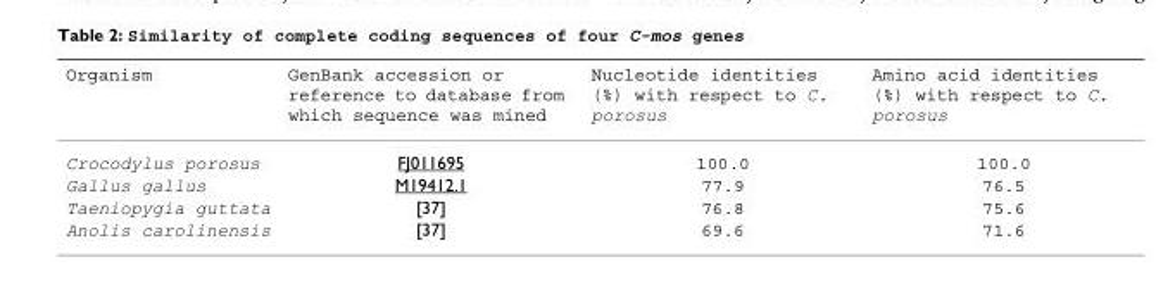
<table><thead><tr><td>Organism</td><td>GenBank accession or reference to database from which sequence was mined</td><td>Nucleotide identities (%) with respect to C. porosus</td><td>Amino acid identities (%) with respect to C. porosus</td></tr></thead><tbody><tr><td>Crocodylus porosus</td><td>FJ011695</td><td>100.0</td><td>100.0</td></tr><tr><td>Gallus gallus</td><td>M19412.1</td><td>77.9</td><td>76.5</td></tr><tr><td>Taeniopygia guttata</td><td>[37]</td><td>76.8</td><td>75.6</td></tr><tr><td>Anolis carolinensis</td><td>[37]</td><td>69.6</td><td>71.6</td></tr></tbody></table>